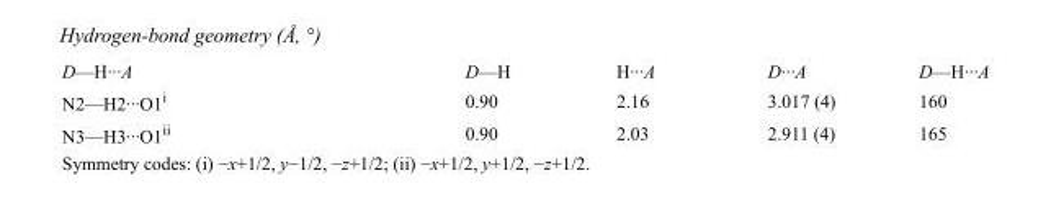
<table><tbody><tr><td>D—H···A</td><td>D—H</td><td>H···A</td><td>D···A</td><td>D—H···A</td></tr><tr><td>N2—H2···O1<sup>i</sup></td><td>0.90</td><td>2.16</td><td>3.017 (4)</td><td>160</td></tr><tr><td>N3—H3···O1<sup>ii</sup></td><td>0.90</td><td>2.03</td><td>2.911 (4)</td><td>165</td></tr></tbody></table>